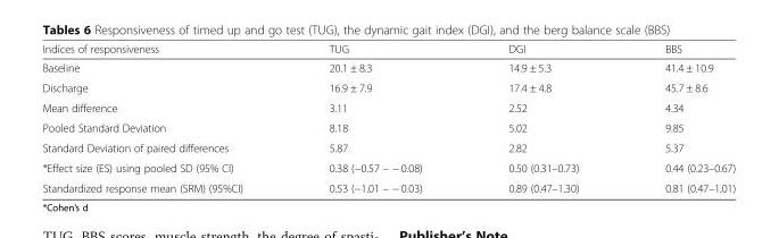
<table><thead><tr><td>Indices of responsiveness</td><td>TUG</td><td>DGI</td><td>BBS</td></tr></thead><tbody><tr><td>Baseline</td><td>20.1 ± 8.3</td><td>14.9 ± 5.3</td><td>41.4 ± 10.9</td></tr><tr><td>Discharge</td><td>16.9 ± 7.9</td><td>17.4 ± 4.8</td><td>45.7 ± 8.6</td></tr><tr><td>Mean difference</td><td>3.11</td><td>2.52</td><td>4.34</td></tr><tr><td>Pooled Standard Deviation</td><td>8.18</td><td>5.02</td><td>9.85</td></tr><tr><td>Standard Deviation of paired differences</td><td>5.87</td><td>2.82</td><td>5.37</td></tr><tr><td>*Effect size (ES) using pooled SD (95% CI)</td><td>0.38 (−0.57 – − 0.08)</td><td>0.50 (0.31–0.73)</td><td>0.44 (0.23–0.67)</td></tr><tr><td>Standardized response mean (SRM) (95%CI)</td><td>0.53 (−1.01 – − 0.03)</td><td>0.89 (0.47–1.30)</td><td>0.81 (0.47–1.01)</td></tr></tbody></table>